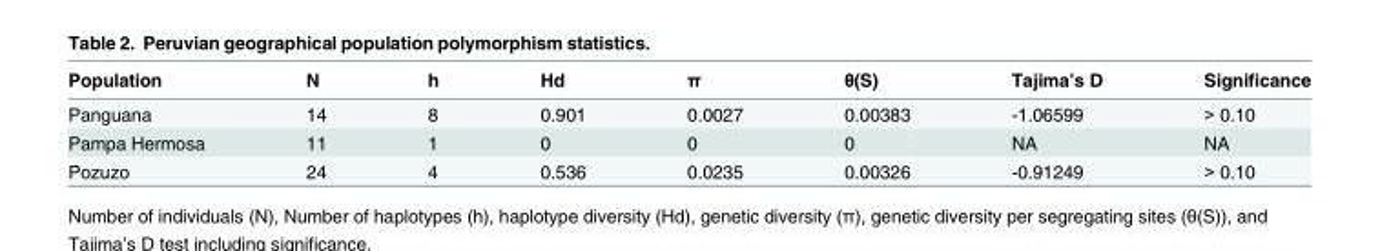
<table><thead><tr><td>Population</td><td>N</td><td>h</td><td>Hd</td><td>π</td><td>θ(S)</td><td>Tajima’s D</td><td>Significance</td></tr></thead><tbody><tr><td>Panguana</td><td>14</td><td>8</td><td>0.901</td><td>0.0027</td><td>0.00383</td><td>-1.06599</td><td>&gt; 0.10</td></tr><tr><td>Pampa Hermosa</td><td>11</td><td>1</td><td>0</td><td>0</td><td>0</td><td>NA</td><td>NA</td></tr><tr><td>Pozuzo</td><td>24</td><td>4</td><td>0.536</td><td>0.0235</td><td>0.00326</td><td>-0.91249</td><td>&gt; 0.10</td></tr></tbody></table>